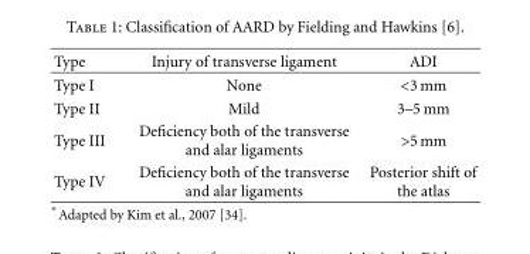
<table><thead><tr><td>Type</td><td>Injury of transverse ligament</td><td>ADI</td></tr></thead><tbody><tr><td>Type I</td><td>None</td><td>&lt;3 mm</td></tr><tr><td>Type II</td><td>Mild</td><td>3–5 mm</td></tr><tr><td>Type III</td><td>Deficiency both of the transverse and alar ligaments</td><td>&gt;5 mm</td></tr><tr><td>Type IV</td><td>Deficiency both of the transverse and alar ligaments</td><td>Posterior shift of the atlas</td></tr></tbody></table>